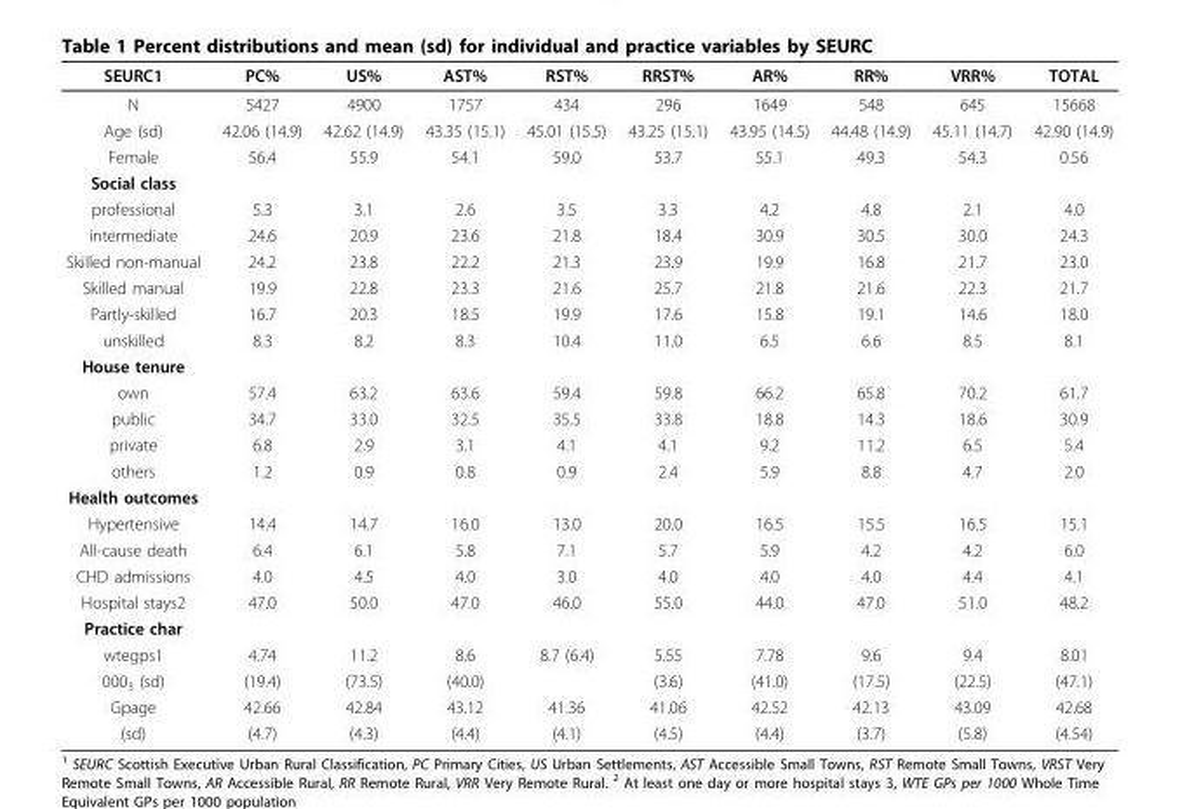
<table><thead><tr><td>SEURC1</td><td>PC%</td><td>US%</td><td>AST%</td><td>RST%</td><td>RRST%</td><td>AR%</td><td>RR%</td><td>VRR%</td><td>TOTAL</td></tr></thead><tbody><tr><td>N</td><td>5427</td><td>4900</td><td>1757</td><td>434</td><td>296</td><td>1649</td><td>548</td><td>645</td><td>15668</td></tr><tr><td>Age (sd)</td><td>42.06 (14.9)</td><td>42.62 (14.9)</td><td>43.35 (15.1)</td><td>45.01 (15.5)</td><td>43.25 (15.1)</td><td>43.95 (14.5)</td><td>44.48 (14.9)</td><td>45.11 (14.7)</td><td>42.90 (14.9)</td></tr><tr><td>Female</td><td>56.4</td><td>55.9</td><td>54.1</td><td>59.0</td><td>53.7</td><td>55.1</td><td>49.3</td><td>54.3</td><td>0.56</td></tr><tr><td colspan="10">Social class</td></tr><tr><td>professional</td><td>5.3</td><td>3.1</td><td>2.6</td><td>3.5</td><td>3.3</td><td>4.2</td><td>4.8</td><td>2.1</td><td>4.0</td></tr><tr><td>intermediate</td><td>24.6</td><td>20.9</td><td>23.6</td><td>21.8</td><td>18.4</td><td>30.9</td><td>30.5</td><td>30.0</td><td>24.3</td></tr><tr><td>Skilled non-manual</td><td>24.2</td><td>23.8</td><td>22.2</td><td>21.3</td><td>23.9</td><td>19.9</td><td>16.8</td><td>21.7</td><td>23.0</td></tr><tr><td>Skilled manual</td><td>19.9</td><td>22.8</td><td>23.3</td><td>21.6</td><td>25.7</td><td>21.8</td><td>21.6</td><td>22.3</td><td>21.7</td></tr><tr><td>Partly-skilled</td><td>16.7</td><td>20.3</td><td>18.5</td><td>19.9</td><td>17.6</td><td>15.8</td><td>19.1</td><td>14.6</td><td>18.0</td></tr><tr><td>unskilled</td><td>8.3</td><td>8.2</td><td>8.3</td><td>10.4</td><td>11.0</td><td>6.5</td><td>6.6</td><td>8.5</td><td>8.1</td></tr><tr><td colspan="10">House tenure</td></tr><tr><td>own</td><td>57.4</td><td>63.2</td><td>63.6</td><td>59.4</td><td>59.8</td><td>66.2</td><td>65.8</td><td>70.2</td><td>61.7</td></tr><tr><td>public</td><td>34.7</td><td>33.0</td><td>32.5</td><td>35.5</td><td>33.8</td><td>18.8</td><td>14.3</td><td>18.6</td><td>30.9</td></tr><tr><td>private</td><td>6.8</td><td>2.9</td><td>3.1</td><td>4.1</td><td>4.1</td><td>9.2</td><td>11.2</td><td>6.5</td><td>5.4</td></tr><tr><td>others</td><td>1.2</td><td>0.9</td><td>0.8</td><td>0.9</td><td>2.4</td><td>5.9</td><td>8.8</td><td>4.7</td><td>2.0</td></tr><tr><td colspan="10">Health outcomes</td></tr><tr><td>Hypertensive</td><td>14.4</td><td>14.7</td><td>16.0</td><td>13.0</td><td>20.0</td><td>16.5</td><td>15.5</td><td>16.5</td><td>15.1</td></tr><tr><td>All-cause death</td><td>6.4</td><td>6.1</td><td>5.8</td><td>7.1</td><td>5.7</td><td>5.9</td><td>4.2</td><td>4.2</td><td>6.0</td></tr><tr><td>CHD admissions</td><td>4.0</td><td>4.5</td><td>4.0</td><td>3.0</td><td>4.0</td><td>4.0</td><td>4.0</td><td>4.4</td><td>4.1</td></tr><tr><td>Hospital stays2</td><td>47.0</td><td>50.0</td><td>47.0</td><td>46.0</td><td>55.0</td><td>44.0</td><td>47.0</td><td>51.0</td><td>48.2</td></tr><tr><td colspan="10">Practice char</td></tr><tr><td>wtegps1</td><td>4.74</td><td>11.2</td><td>8.6</td><td>8.7 (6.4)</td><td>5.55</td><td>7.78</td><td>9.6</td><td>9.4</td><td>8.01</td></tr><tr><td>000<sub>3</sub> (sd)</td><td>(19.4)</td><td>(73.5)</td><td>(40.0)</td><td></td><td>(3.6)</td><td>(41.0)</td><td>(17.5)</td><td>(22.5)</td><td>(47.1)</td></tr><tr><td>Gpage</td><td>42.66</td><td>42.84</td><td>43.12</td><td>41.36</td><td>41.06</td><td>42.52</td><td>42.13</td><td>43.09</td><td>42.68</td></tr><tr><td>(sd)</td><td>(4.7)</td><td>(4.3)</td><td>(4.4)</td><td>(4.1)</td><td>(4.5)</td><td>(4.4)</td><td>(3.7)</td><td>(5.8)</td><td>(4.54)</td></tr></tbody></table>